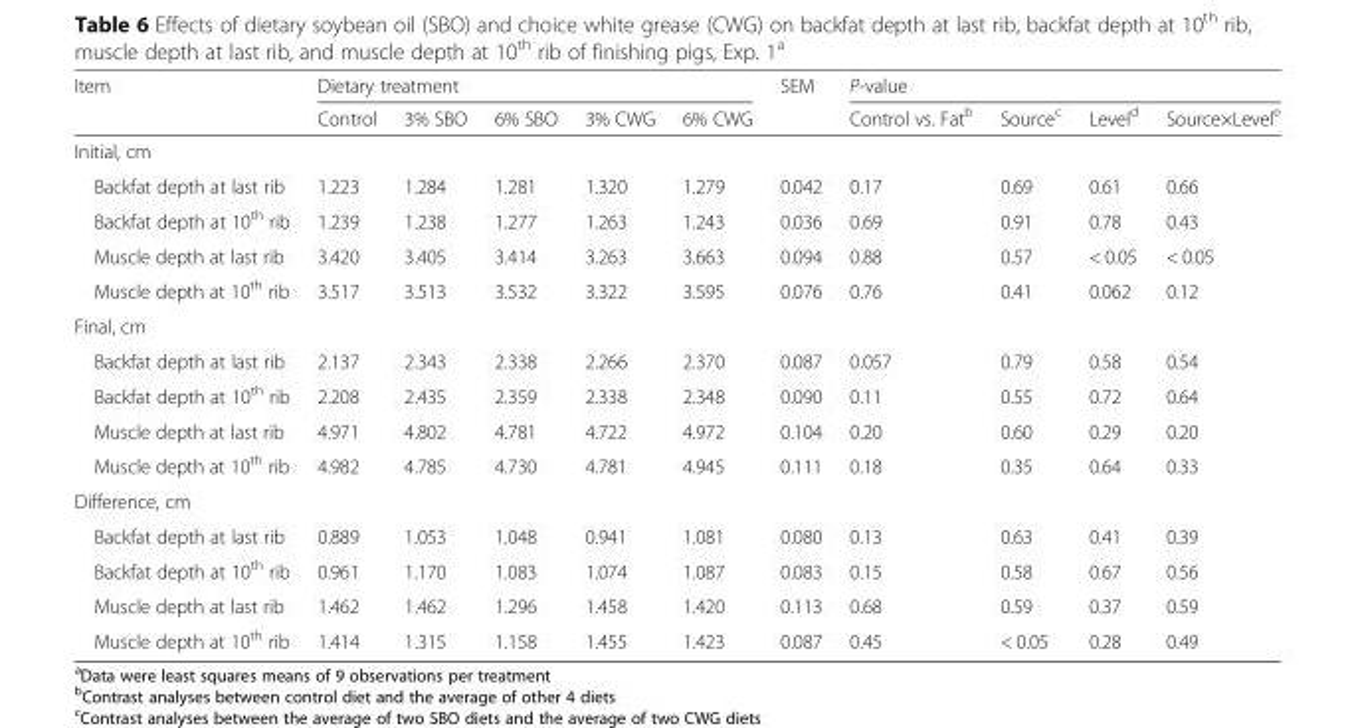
<table><thead><tr><td rowspan="2">Item</td><td colspan="5">Dietary treatment</td><td rowspan="2">SEM</td><td colspan="4">P-value</td></tr><tr><td>Control</td><td>3% SBO</td><td>6% SBO</td><td>3% CWG</td><td>6% CWG</td><td>Control vs. Fat<sup>b</sup></td><td>Source<sup>c</sup></td><td>Level<sup>d</sup></td><td>Source×Level<sup>e</sup></td></tr></thead><tbody><tr><td colspan="11">Initial, cm</td></tr><tr><td>Backfat depth at last rib</td><td>1.223</td><td>1.284</td><td>1.281</td><td>1.320</td><td>1.279</td><td>0.042</td><td>0.17</td><td>0.69</td><td>0.61</td><td>0.66</td></tr><tr><td>Backfat depth at 10<sup>th</sup> rib</td><td>1.239</td><td>1.238</td><td>1.277</td><td>1.263</td><td>1.243</td><td>0.036</td><td>0.69</td><td>0.91</td><td>0.78</td><td>0.43</td></tr><tr><td>Muscle depth at last rib</td><td>3.420</td><td>3.405</td><td>3.414</td><td>3.263</td><td>3.663</td><td>0.094</td><td>0.88</td><td>0.57</td><td>&lt; 0.05</td><td>&lt; 0.05</td></tr><tr><td>Muscle depth at 10<sup>th</sup> rib</td><td>3.517</td><td>3.513</td><td>3.532</td><td>3.322</td><td>3.595</td><td>0.076</td><td>0.76</td><td>0.41</td><td>0.062</td><td>0.12</td></tr><tr><td colspan="11">Final, cm</td></tr><tr><td>Backfat depth at last rib</td><td>2.137</td><td>2.343</td><td>2.338</td><td>2.266</td><td>2.370</td><td>0.087</td><td>0.057</td><td>0.79</td><td>0.58</td><td>0.54</td></tr><tr><td>Backfat depth at 10<sup>th</sup> rib</td><td>2.208</td><td>2.435</td><td>2.359</td><td>2.338</td><td>2.348</td><td>0.090</td><td>0.11</td><td>0.55</td><td>0.72</td><td>0.64</td></tr><tr><td>Muscle depth at last rib</td><td>4.971</td><td>4.802</td><td>4.781</td><td>4.722</td><td>4.972</td><td>0.104</td><td>0.20</td><td>0.60</td><td>0.29</td><td>0.20</td></tr><tr><td>Muscle depth at 10<sup>th</sup> rib</td><td>4.982</td><td>4.785</td><td>4.730</td><td>4.781</td><td>4.945</td><td>0.111</td><td>0.18</td><td>0.35</td><td>0.64</td><td>0.33</td></tr><tr><td colspan="11">Difference, cm</td></tr><tr><td>Backfat depth at last rib</td><td>0.889</td><td>1.053</td><td>1.048</td><td>0.941</td><td>1.081</td><td>0.080</td><td>0.13</td><td>0.63</td><td>0.41</td><td>0.39</td></tr><tr><td>Backfat depth at 10<sup>th</sup> rib</td><td>0.961</td><td>1.170</td><td>1.083</td><td>1.074</td><td>1.087</td><td>0.083</td><td>0.15</td><td>0.58</td><td>0.67</td><td>0.56</td></tr><tr><td>Muscle depth at last rib</td><td>1.462</td><td>1.462</td><td>1.296</td><td>1.458</td><td>1.420</td><td>0.113</td><td>0.68</td><td>0.59</td><td>0.37</td><td>0.59</td></tr><tr><td>Muscle depth at 10<sup>th</sup> rib</td><td>1.414</td><td>1.315</td><td>1.158</td><td>1.455</td><td>1.423</td><td>0.087</td><td>0.45</td><td>&lt; 0.05</td><td>0.28</td><td>0.49</td></tr></tbody></table>